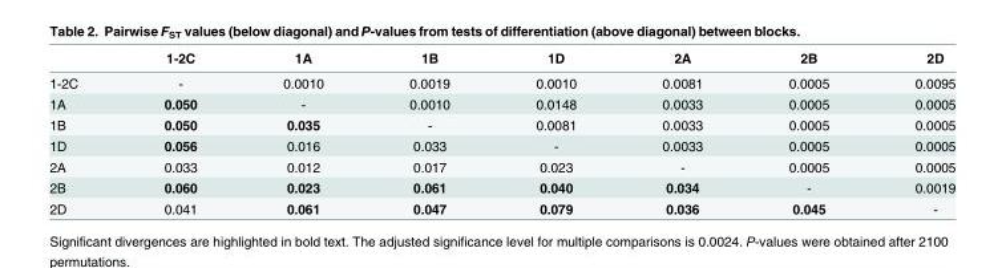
<table><thead><tr><td></td><td>1-2C</td><td>1A</td><td>1B</td><td>1D</td><td>2A</td><td>2B</td><td>2D</td></tr></thead><tbody><tr><td>1-2C</td><td>-</td><td>0.0010</td><td>0.0019</td><td>0.0010</td><td>0.0081</td><td>0.0005</td><td>0.0095</td></tr><tr><td>1A</td><td>0.050</td><td>-</td><td>0.0010</td><td>0.0148</td><td>0.0033</td><td>0.0005</td><td>0.0005</td></tr><tr><td>1B</td><td>0.050</td><td>0.035</td><td>-</td><td>0.0081</td><td>0.0033</td><td>0.0005</td><td>0.0005</td></tr><tr><td>1D</td><td>0.056</td><td>0.016</td><td>0.033</td><td>-</td><td>0.0033</td><td>0.0005</td><td>0.0005</td></tr><tr><td>2A</td><td>0.033</td><td>0.012</td><td>0.017</td><td>0.023</td><td>-</td><td>0.0005</td><td>0.0005</td></tr><tr><td>2B</td><td>0.060</td><td>0.023</td><td>0.061</td><td>0.040</td><td>0.034</td><td>-</td><td>0.0019</td></tr><tr><td>2D</td><td>0.041</td><td>0.061</td><td>0.047</td><td>0.079</td><td>0.036</td><td>0.045</td><td>-</td></tr></tbody></table>